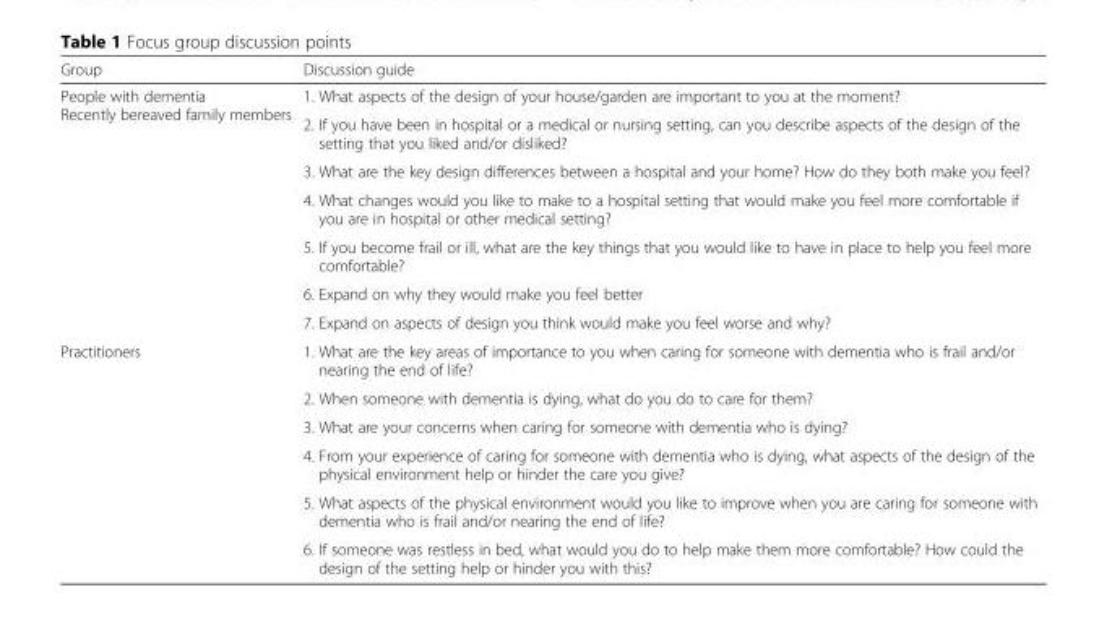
<table><thead><tr><td>Group</td><td>Discussion guide</td></tr></thead><tbody><tr><td rowspan="7">People with dementia Recently bereaved family members</td><td>1. What aspects of the design of your house/garden are important to you at the moment?</td></tr><tr><td>2. If you have been in hospital or a medical or nursing setting, can you describe aspects of the design of the setting that you liked and/or disliked?</td></tr><tr><td>3. What are the key design differences between a hospital and your home? How do they both make you feel?</td></tr><tr><td>4. What changes would you like to make to a hospital setting that would make you feel more comfortable if you are in hospital or other medical setting?</td></tr><tr><td>5. If you become frail or ill, what are the key things that you would like to have in place to help you feel more comfortable?</td></tr><tr><td>6. Expand on why they would make you feel better</td></tr><tr><td>7. Expand on aspects of design you think would make you feel worse and why?</td></tr><tr><td rowspan="6">Practitioners</td><td>1. What are the key areas of importance to you when caring for someone with dementia who is frail and/or nearing the end of life?</td></tr><tr><td>2. When someone with dementia is dying, what do you do to care for them?</td></tr><tr><td>3. What are your concerns when caring for someone with dementia who is dying?</td></tr><tr><td>4. From your experience of caring for someone with dementia who is dying, what aspects of the design of the physical environment help or hinder the care you give?</td></tr><tr><td>5. What aspects of the physical environment would you like to improve when you are caring for someone with dementia who is frail and/or nearing the end of life?</td></tr><tr><td>6. If someone was restless in bed, what would you do to help make them more comfortable? How could the design of the setting help or hinder you with this?</td></tr></tbody></table>